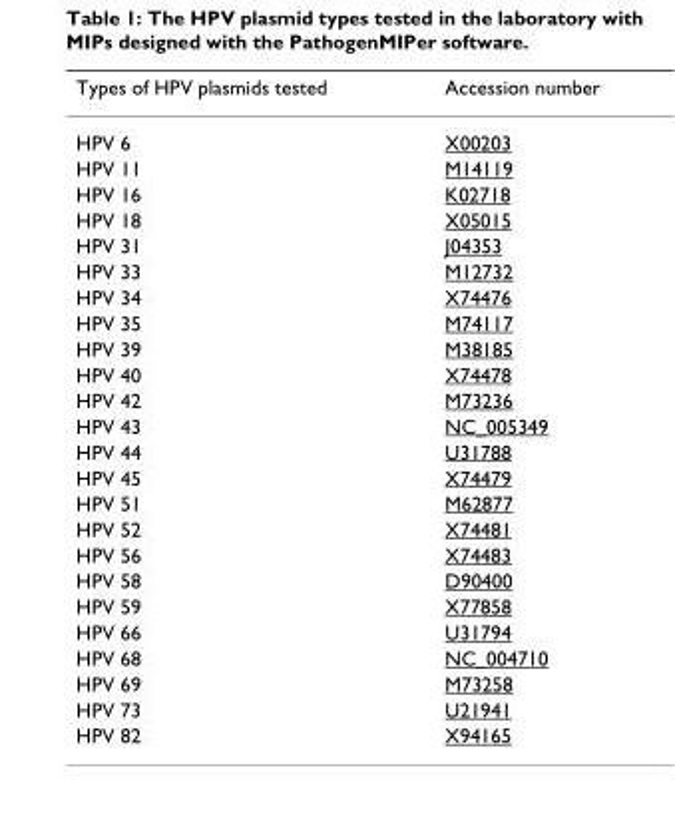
<table><thead><tr><td>Types of HPV plasmids tested</td><td>Accession number</td></tr></thead><tbody><tr><td>HPV 6</td><td>X00203</td></tr><tr><td>HPV 11</td><td>M14119</td></tr><tr><td>HPV 16</td><td>K02718</td></tr><tr><td>HPV 18</td><td>X05015</td></tr><tr><td>HPV 31</td><td>J04353</td></tr><tr><td>HPV 33</td><td>M12732</td></tr><tr><td>HPV 34</td><td>X74476</td></tr><tr><td>HPV 35</td><td>M74117</td></tr><tr><td>HPV 39</td><td>M38185</td></tr><tr><td>HPV 40</td><td>X74478</td></tr><tr><td>HPV 42</td><td>M73236</td></tr><tr><td>HPV 43</td><td>NC_005349</td></tr><tr><td>HPV 44</td><td>U31788</td></tr><tr><td>HPV 45</td><td>X74479</td></tr><tr><td>HPV 51</td><td>M62877</td></tr><tr><td>HPV 52</td><td>X74481</td></tr><tr><td>HPV 56</td><td>X74483</td></tr><tr><td>HPV 58</td><td>D90400</td></tr><tr><td>HPV 59</td><td>X77858</td></tr><tr><td>HPV 66</td><td>U31794</td></tr><tr><td>HPV 68</td><td>NC_004710</td></tr><tr><td>HPV 69</td><td>M73258</td></tr><tr><td>HPV 73</td><td>U21941</td></tr><tr><td>HPV 82</td><td>X94165</td></tr></tbody></table>